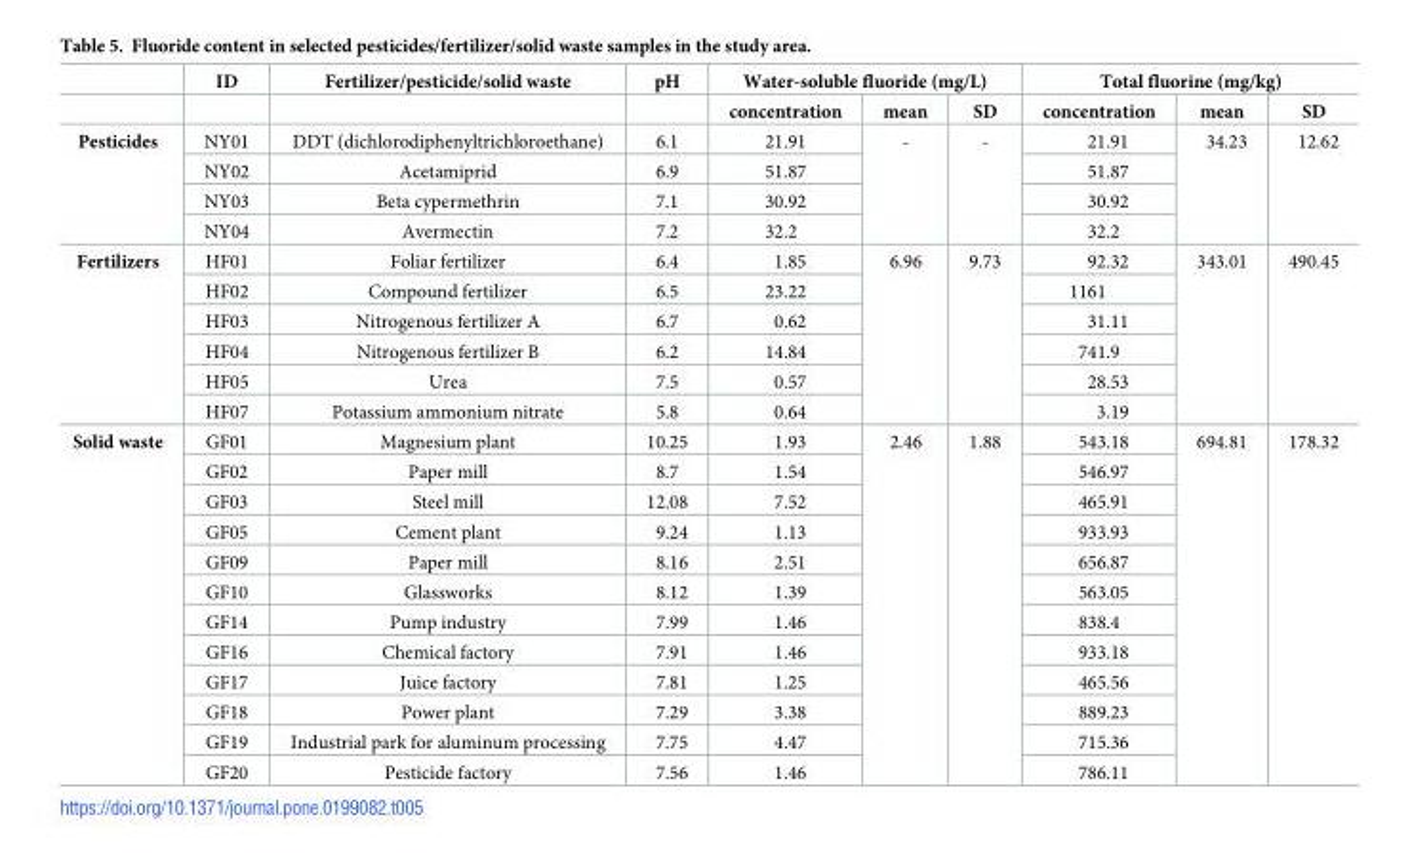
<table><thead><tr><td rowspan="2"></td><td rowspan="2">ID</td><td rowspan="2">Fertilizer/pesticide/solid waste</td><td rowspan="2">pH</td><td colspan="3">Water-soluble fluoride (mg/L)</td><td colspan="3">Total fluorine (mg/kg)</td></tr><tr><td>concentration</td><td>mean</td><td>SD</td><td>concentration</td><td>mean</td><td>SD</td></tr></thead><tbody><tr><td rowspan="4">Pesticides</td><td>NY01</td><td>DDT (dichlorodiphenyltrichloroethane)</td><td>6.1</td><td>21.91</td><td rowspan="4">-</td><td rowspan="4">-</td><td>21.91</td><td rowspan="4">34.23</td><td rowspan="4">12.62</td></tr><tr><td>NY02</td><td>Acetamiprid</td><td>6.9</td><td>51.87</td><td>51.87</td></tr><tr><td>NY03</td><td>Beta cypermethrin</td><td>7.1</td><td>30.92</td><td>30.92</td></tr><tr><td>NY04</td><td>Avermectin</td><td>7.2</td><td>32.2</td><td>32.2</td></tr><tr><td rowspan="6">Fertilizers</td><td>HF01</td><td>Foliar fertilizer</td><td>6.4</td><td>1.85</td><td rowspan="6">6.96</td><td rowspan="6">9.73</td><td>92.32</td><td rowspan="6">343.01</td><td rowspan="6">490.45</td></tr><tr><td>HF02</td><td>Compound fertilizer</td><td>6.5</td><td>23.22</td><td>1161</td></tr><tr><td>HF03</td><td>Nitrogenous fertilizer A</td><td>6.7</td><td>0.62</td><td>31.11</td></tr><tr><td>HF04</td><td>Nitrogenous fertilizer B</td><td>6.2</td><td>14.84</td><td>741.9</td></tr><tr><td>HF05</td><td>Urea</td><td>7.5</td><td>0.57</td><td>28.53</td></tr><tr><td>HF07</td><td>Potassium ammonium nitrate</td><td>5.8</td><td>0.64</td><td>3.19</td></tr><tr><td rowspan="12">Solid waste</td><td>GF01</td><td>Magnesium plant</td><td>10.25</td><td>1.93</td><td rowspan="12">2.46</td><td rowspan="12">1.88</td><td>543.18</td><td rowspan="12">694.81</td><td rowspan="12">178.32</td></tr><tr><td>GF02</td><td>Paper mill</td><td>8.7</td><td>1.54</td><td>546.97</td></tr><tr><td>GF03</td><td>Steel mill</td><td>12.08</td><td>7.52</td><td>465.91</td></tr><tr><td>GF05</td><td>Cement plant</td><td>9.24</td><td>1.13</td><td>933.93</td></tr><tr><td>GF09</td><td>Paper mill</td><td>8.16</td><td>2.51</td><td>656.87</td></tr><tr><td>GF10</td><td>Glassworks</td><td>8.12</td><td>1.39</td><td>563.05</td></tr><tr><td>GF14</td><td>Pump industry</td><td>7.99</td><td>1.46</td><td>838.4</td></tr><tr><td>GF16</td><td>Chemical factory</td><td>7.91</td><td>1.46</td><td>933.18</td></tr><tr><td>GF17</td><td>Juice factory</td><td>7.81</td><td>1.25</td><td>465.56</td></tr><tr><td>GF18</td><td>Power plant</td><td>7.29</td><td>3.38</td><td>889.23</td></tr><tr><td>GF19</td><td>Industrial park for aluminum processing</td><td>7.75</td><td>4.47</td><td>715.36</td></tr><tr><td>GF20</td><td>Pesticide factory</td><td>7.56</td><td>1.46</td><td>786.11</td></tr></tbody></table>